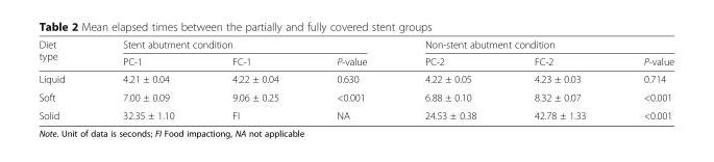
<table><thead><tr><td rowspan="2">Diet type</td><td colspan="3">Stent abutment condition</td><td colspan="3">Non-stent abutment condition</td></tr><tr><td>PC-1</td><td>FC-1</td><td>P-value</td><td>PC-2</td><td>FC-2</td><td>P-value</td></tr></thead><tbody><tr><td>Liquid</td><td>4.21 ± 0.04</td><td>4.22 ± 0.04</td><td>0.630</td><td>4.22 ± 0.05</td><td>4.23 ± 0.03</td><td>0.714</td></tr><tr><td>Soft</td><td>7.00 ± 0.09</td><td>9.06 ± 0.25</td><td>&lt;0.001</td><td>6.88 ± 0.10</td><td>8.32 ± 0.07</td><td>&lt;0.001</td></tr><tr><td>Solid</td><td>32.35 ± 1.10</td><td>FI</td><td>NA</td><td>24.53 ± 0.38</td><td>42.78 ± 1.33</td><td>&lt;0.001</td></tr></tbody></table>